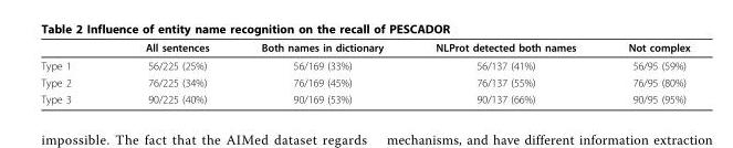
<table><thead><tr><td></td><td>All sentences</td><td>Both names in dictionary</td><td>NLProt detected both names</td><td>Not complex</td></tr></thead><tbody><tr><td>Type 1</td><td>56/225 (25%)</td><td>56/169 (33%)</td><td>56/137 (41%)</td><td>56/95 (59%)</td></tr><tr><td>Type 2</td><td>76/225 (34%)</td><td>76/169 (45%)</td><td>76/137 (55%)</td><td>76/95 (80%)</td></tr><tr><td>Type 3</td><td>90/225 (40%)</td><td>90/169 (53%)</td><td>90/137 (66%)</td><td>90/95 (95%)</td></tr></tbody></table>